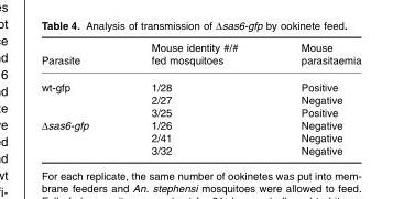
<table><thead><tr><td>Parasite</td><td>Mouse identity #/# fed mosquitoes</td><td>Mouse parasitaemia</td></tr></thead><tbody><tr><td rowspan="3">wt-gfp</td><td>1/28</td><td>Positive</td></tr><tr><td>2/27</td><td>Negative</td></tr><tr><td>3/25</td><td>Positive</td></tr><tr><td rowspan="3">Δsas6-gfp</td><td>1/26</td><td>Negative</td></tr><tr><td>2/41</td><td>Negative</td></tr><tr><td>3/32</td><td>Negative</td></tr></tbody></table>